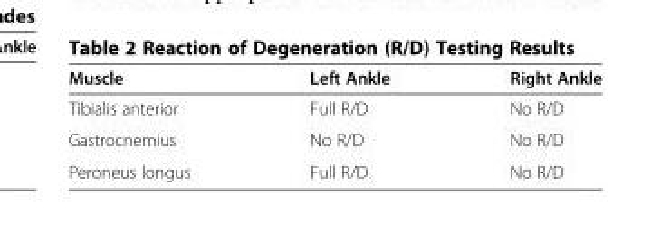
<table><thead><tr><td>Muscle</td><td>Left Ankle</td><td>Right Ankle</td></tr></thead><tbody><tr><td>Tibialis anterior</td><td>Full R/D</td><td>No R/D</td></tr><tr><td>Gastrocnemius</td><td>No R/D</td><td>No R/D</td></tr><tr><td>Peroneus longus</td><td>Full R/D</td><td>No R/D</td></tr></tbody></table>